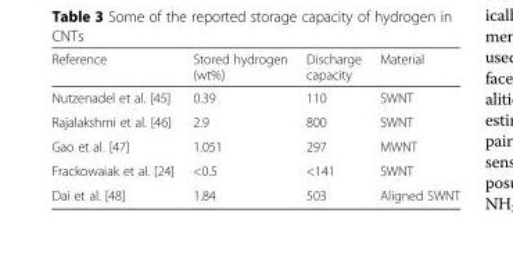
<table><thead><tr><td>Reference</td><td>Stored hydrogen (wt%)</td><td>Discharge capacity</td><td>Material</td></tr></thead><tbody><tr><td>Nutzenadel et al. [45]</td><td>0.39</td><td>110</td><td>SWNT</td></tr><tr><td>Rajalakshmi et al. [46]</td><td>2.9</td><td>800</td><td>SWNT</td></tr><tr><td>Gao et al. [47]</td><td>1.051</td><td>297</td><td>MWNT</td></tr><tr><td>Frackowaiak et al. [24]</td><td>&lt;0.5</td><td>&lt;141</td><td>SWNT</td></tr><tr><td>Dai et al. [48]</td><td>1.84</td><td>503</td><td>Aligned SWNT</td></tr></tbody></table>